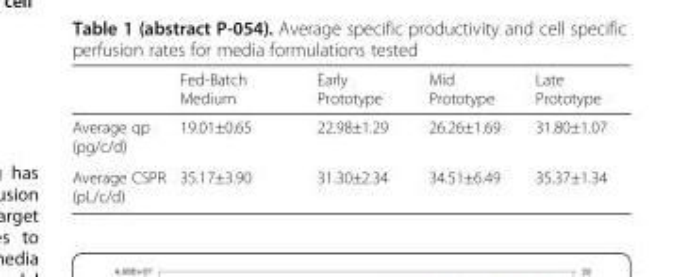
<table><thead><tr><td></td><td>Fed-Batch Medium</td><td>Early Prototype</td><td>Mid Prototype</td><td>Late Prototype</td></tr></thead><tbody><tr><td>Average qp (pg/c/d)</td><td>19.01±0.65</td><td>22.98±1.29</td><td>26.26±1.69</td><td>31.80±1.07</td></tr><tr><td>Average CSPR (pL/c/d)</td><td>35.17±3.90</td><td>31.30±2.34</td><td>34.51±6.49</td><td>35.37±1.34</td></tr></tbody></table>